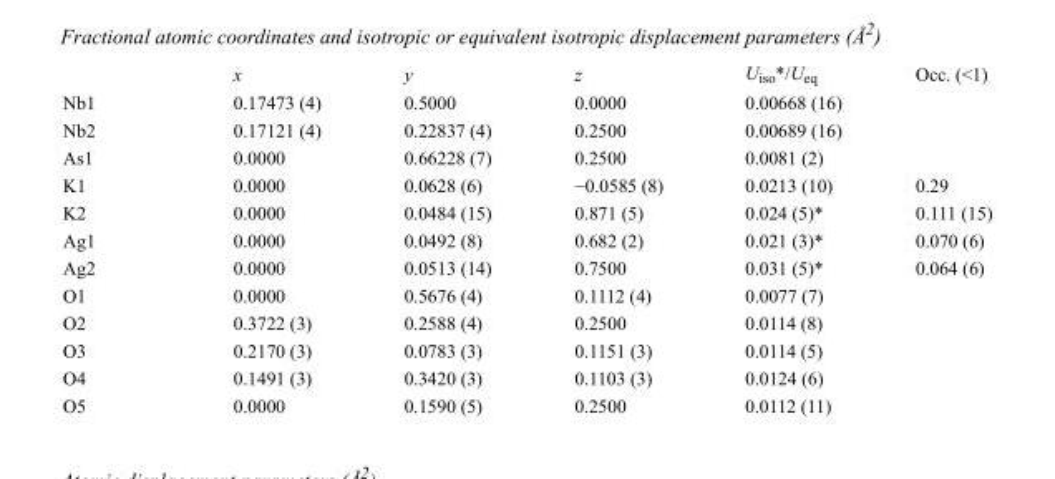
<table><thead><tr><td></td><td>x</td><td>y</td><td>z</td><td>U<sub>iso</sub>*/U<sub>eq</sub></td><td>Occ. (&lt;1)</td></tr></thead><tbody><tr><td>Nb1</td><td>0.17473 (4)</td><td>0.5000</td><td>0.0000</td><td>0.00668 (16)</td><td></td></tr><tr><td>Nb2</td><td>0.17121 (4)</td><td>0.22837 (4)</td><td>0.2500</td><td>0.00689 (16)</td><td></td></tr><tr><td>As1</td><td>0.0000</td><td>0.66228 (7)</td><td>0.2500</td><td>0.0081 (2)</td><td></td></tr><tr><td>K1</td><td>0.0000</td><td>0.0628 (6)</td><td>−0.0585 (8)</td><td>0.0213 (10)</td><td>0.29</td></tr><tr><td>K2</td><td>0.0000</td><td>0.0484 (15)</td><td>0.871 (5)</td><td>0.024 (5)*</td><td>0.111 (15)</td></tr><tr><td>Ag1</td><td>0.0000</td><td>0.0492 (8)</td><td>0.682 (2)</td><td>0.021 (3)*</td><td>0.070 (6)</td></tr><tr><td>Ag2</td><td>0.0000</td><td>0.0513 (14)</td><td>0.7500</td><td>0.031 (5)*</td><td>0.064 (6)</td></tr><tr><td>O1</td><td>0.0000</td><td>0.5676 (4)</td><td>0.1112 (4)</td><td>0.0077 (7)</td><td></td></tr><tr><td>O2</td><td>0.3722 (3)</td><td>0.2588 (4)</td><td>0.2500</td><td>0.0114 (8)</td><td></td></tr><tr><td>O3</td><td>0.2170 (3)</td><td>0.0783 (3)</td><td>0.1151 (3)</td><td>0.0114 (5)</td><td></td></tr><tr><td>O4</td><td>0.1491 (3)</td><td>0.3420 (3)</td><td>0.1103 (3)</td><td>0.0124 (6)</td><td></td></tr><tr><td>O5</td><td>0.0000</td><td>0.1590 (5)</td><td>0.2500</td><td>0.0112 (11)</td><td></td></tr></tbody></table>